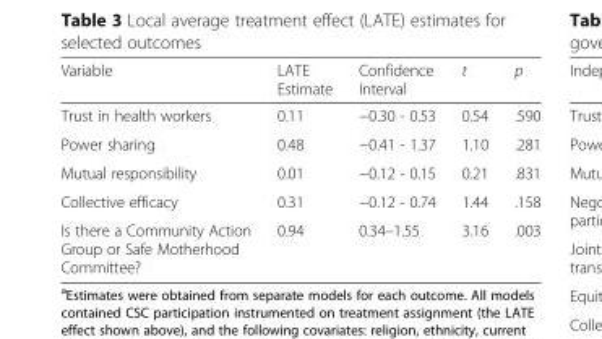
<table><thead><tr><td>Variable</td><td>LATE Estimate</td><td>Confidence Interval</td><td>t</td><td>p</td></tr></thead><tbody><tr><td>Trust in health workers</td><td>0.11</td><td>−0.30 - 0.53</td><td>0.54</td><td>.590</td></tr><tr><td>Power sharing</td><td>0.48</td><td>−0.41 - 1.37</td><td>1.10</td><td>.281</td></tr><tr><td>Mutual responsibility</td><td>0.01</td><td>−0.12 - 0.15</td><td>0.21</td><td>.831</td></tr><tr><td>Collective efficacy</td><td>0.31</td><td>−0.12 - 0.74</td><td>1.44</td><td>.158</td></tr><tr><td>Is there a Community Action Group or Safe Motherhood Committee?</td><td>0.94</td><td>0.34–1.55</td><td>3.16</td><td>.003</td></tr></tbody></table>